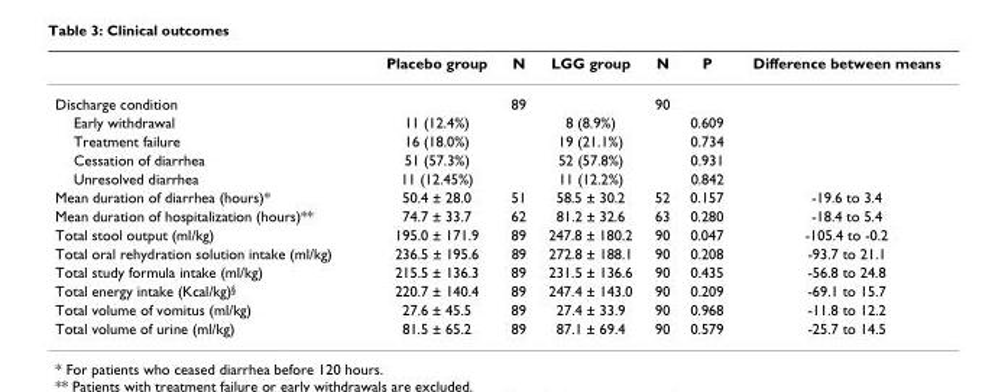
<table><thead><tr><td></td><td>Placebo group</td><td>N</td><td>LGG group</td><td>N</td><td>P</td><td>Difference between means</td></tr></thead><tbody><tr><td>Discharge condition</td><td></td><td>89</td><td></td><td>90</td><td></td><td></td></tr><tr><td>Early withdrawal</td><td>11 (12.4%)</td><td></td><td>8 (8.9%)</td><td></td><td>0.609</td><td></td></tr><tr><td>Treatment failure</td><td>16 (18.0%)</td><td></td><td>19 (21.1%)</td><td></td><td>0.734</td><td></td></tr><tr><td>Cessation of diarrhea</td><td>51 (57.3%)</td><td></td><td>52 (57.8%)</td><td></td><td>0.931</td><td></td></tr><tr><td>Unresolved diarrhea</td><td>11 (12.45%)</td><td></td><td>11 (12.2%)</td><td></td><td>0.842</td><td></td></tr><tr><td>Mean duration of diarrhea (hours)*</td><td>50.4 ± 28.0</td><td>51</td><td>58.5 ± 30.2</td><td>52</td><td>0.157</td><td>-19.6 to 3.4</td></tr><tr><td>Mean duration of hospitalization (hours)**</td><td>74.7 ± 33.7</td><td>62</td><td>81.2 ± 32.6</td><td>63</td><td>0.280</td><td>-18.4 to 5.4</td></tr><tr><td>Total stool output (ml/kg)</td><td>195.0 ± 171.9</td><td>89</td><td>247.8 ± 180.2</td><td>90</td><td>0.047</td><td>-105.4 to -0.2</td></tr><tr><td>Total oral rehydration solution intake (ml/kg)</td><td>236.5 ± 195.6</td><td>89</td><td>272.8 ± 188.1</td><td>90</td><td>0.208</td><td>-93.7 to 21.1</td></tr><tr><td>Total study formula intake (ml/kg)</td><td>215.5 ± 136.3</td><td>89</td><td>231.5 ± 136.6</td><td>90</td><td>0.435</td><td>-56.8 to 24.8</td></tr><tr><td>Total energy intake (Kcal/kg)<sup>§</sup></td><td>220.7 ± 140.4</td><td>89</td><td>247.4 ± 143.0</td><td>90</td><td>0.209</td><td>-69.1 to 15.7</td></tr><tr><td>Total volume of vomitus (ml/kg)</td><td>27.6 ± 45.5</td><td>89</td><td>27.4 ± 33.9</td><td>90</td><td>0.968</td><td>-11.8 to 12.2</td></tr><tr><td>Total volume of urine (ml/kg)</td><td>81.5 ± 65.2</td><td>89</td><td>87.1 ± 69.4</td><td>90</td><td>0.579</td><td>-25.7 to 14.5</td></tr></tbody></table>